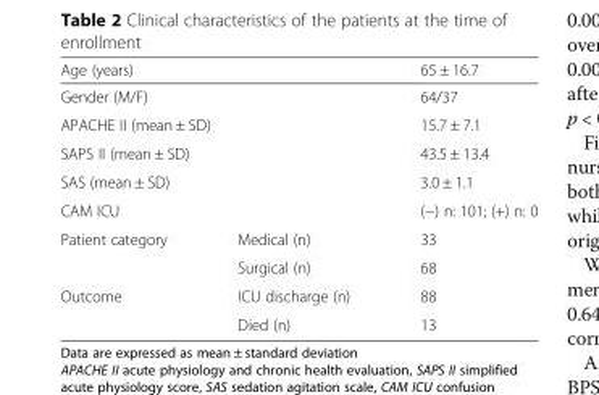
<table><thead><tr><td colspan="2">Age (years)</td><td>65 ± 16.7</td></tr></thead><tbody><tr><td colspan="2">Gender (M/F)</td><td>64/37</td></tr><tr><td colspan="2">APACHE II (mean ± SD)</td><td>15.7 ± 7.1</td></tr><tr><td colspan="2">SAPS II (mean ± SD)</td><td>43.5 ± 13.4</td></tr><tr><td colspan="2">SAS (mean ± SD)</td><td>3.0 ± 1.1</td></tr><tr><td colspan="2">CAM ICU</td><td>(−) n: 101; (+) n: 0</td></tr><tr><td rowspan="2">Patient category</td><td>Medical (n)</td><td>33</td></tr><tr><td>Surgical (n)</td><td>68</td></tr><tr><td rowspan="2">Outcome</td><td>ICU discharge (n)</td><td>88</td></tr><tr><td>Died (n)</td><td>13</td></tr></tbody></table>